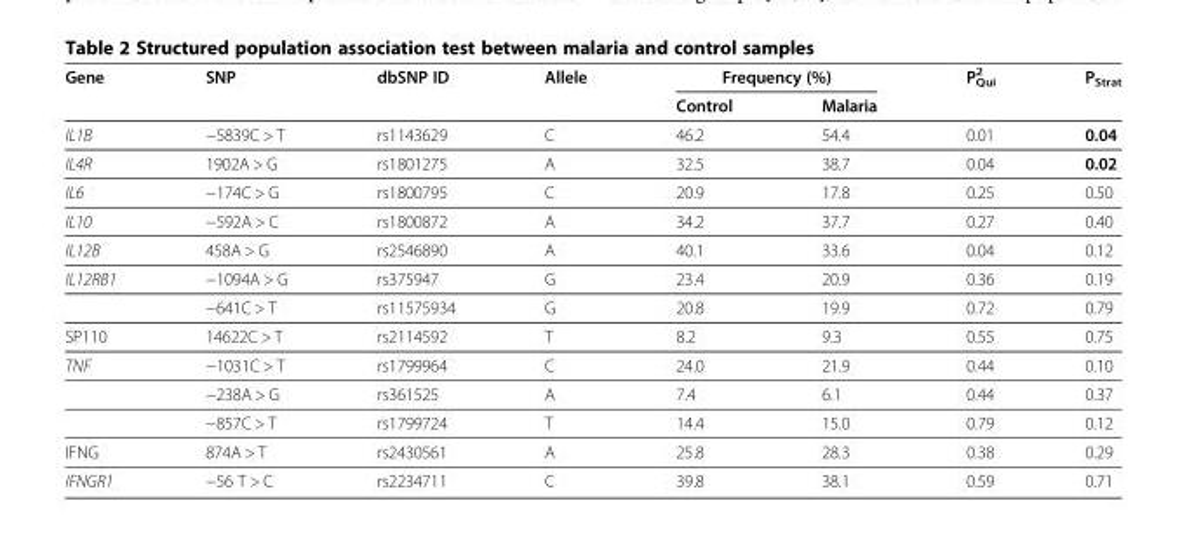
<table><thead><tr><td rowspan="2">Gene</td><td rowspan="2">SNP</td><td rowspan="2">dbSNP ID</td><td rowspan="2">Allele</td><td colspan="2">Frequency (%)</td><td rowspan="2">P<sub>Qui</sub> <sup>2</sup></td><td rowspan="2">P<sub>Strat</sub></td></tr><tr><td>Control</td><td>Malaria</td></tr></thead><tbody><tr><td>IL1B</td><td>−5839C &gt; T</td><td>rs1143629</td><td>C</td><td>46.2</td><td>54.4</td><td>0.01</td><td>0.04</td></tr><tr><td>IL4R</td><td>1902A &gt; G</td><td>rs1801275</td><td>A</td><td>32.5</td><td>38.7</td><td>0.04</td><td>0.02</td></tr><tr><td>IL6</td><td>−174C &gt; G</td><td>rs1800795</td><td>C</td><td>20.9</td><td>17.8</td><td>0.25</td><td>0.50</td></tr><tr><td>IL10</td><td>−592A &gt; C</td><td>rs1800872</td><td>A</td><td>34.2</td><td>37.7</td><td>0.27</td><td>0.40</td></tr><tr><td>IL12B</td><td>458A &gt; G</td><td>rs2546890</td><td>A</td><td>40.1</td><td>33.6</td><td>0.04</td><td>0.12</td></tr><tr><td rowspan="2">IL12RB1</td><td>−1094A &gt; G</td><td>rs375947</td><td>G</td><td>23.4</td><td>20.9</td><td>0.36</td><td>0.19</td></tr><tr><td>−641C &gt; T</td><td>rs11575934</td><td>G</td><td>20.8</td><td>19.9</td><td>0.72</td><td>0.79</td></tr><tr><td>SP110</td><td>14622C &gt; T</td><td>rs2114592</td><td>T</td><td>8.2</td><td>9.3</td><td>0.55</td><td>0.75</td></tr><tr><td rowspan="3">TNF</td><td>−1031C &gt; T</td><td>rs1799964</td><td>C</td><td>24.0</td><td>21.9</td><td>0.44</td><td>0.10</td></tr><tr><td>−238A &gt; G</td><td>rs361525</td><td>A</td><td>7.4</td><td>6.1</td><td>0.44</td><td>0.37</td></tr><tr><td>−857C &gt; T</td><td>rs1799724</td><td>T</td><td>14.4</td><td>15.0</td><td>0.79</td><td>0.12</td></tr><tr><td>IFNG</td><td>874A &gt; T</td><td>rs2430561</td><td>A</td><td>25.8</td><td>28.3</td><td>0.38</td><td>0.29</td></tr><tr><td>IFNGR1</td><td>−56 T &gt; C</td><td>rs2234711</td><td>C</td><td>39.8</td><td>38.1</td><td>0.59</td><td>0.71</td></tr></tbody></table>